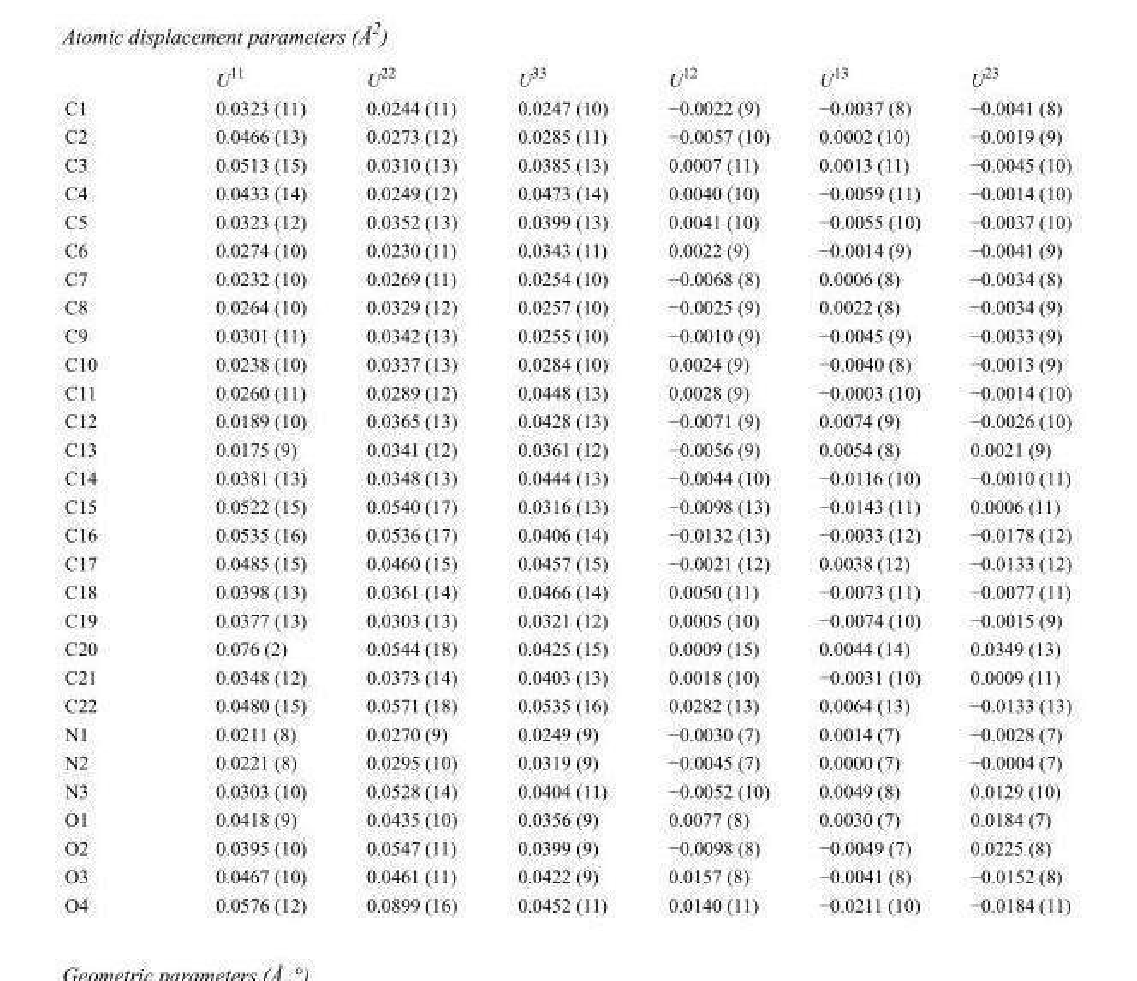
<table><thead><tr><td></td><td>U<sup>11</sup></td><td>U<sup>22</sup></td><td>U<sup>33</sup></td><td>U<sup>12</sup></td><td>U<sup>13</sup></td><td>U<sup>23</sup></td></tr></thead><tbody><tr><td>C1</td><td>0.0323 (11)</td><td>0.0244 (11)</td><td>0.0247 (10)</td><td>−0.0022 (9)</td><td>−0.0037 (8)</td><td>−0.0041 (8)</td></tr><tr><td>C2</td><td>0.0466 (13)</td><td>0.0273 (12)</td><td>0.0285 (11)</td><td>−0.0057 (10)</td><td>0.0002 (10)</td><td>−0.0019 (9)</td></tr><tr><td>C3</td><td>0.0513 (15)</td><td>0.0310 (13)</td><td>0.0385 (13)</td><td>0.0007 (11)</td><td>0.0013 (11)</td><td>−0.0045 (10)</td></tr><tr><td>C4</td><td>0.0433 (14)</td><td>0.0249 (12)</td><td>0.0473 (14)</td><td>0.0040 (10)</td><td>−0.0059 (11)</td><td>−0.0014 (10)</td></tr><tr><td>C5</td><td>0.0323 (12)</td><td>0.0352 (13)</td><td>0.0399 (13)</td><td>0.0041 (10)</td><td>−0.0055 (10)</td><td>−0.0037 (10)</td></tr><tr><td>C6</td><td>0.0274 (10)</td><td>0.0230 (11)</td><td>0.0343 (11)</td><td>0.0022 (9)</td><td>−0.0014 (9)</td><td>−0.0041 (9)</td></tr><tr><td>C7</td><td>0.0232 (10)</td><td>0.0269 (11)</td><td>0.0254 (10)</td><td>−0.0068 (8)</td><td>0.0006 (8)</td><td>−0.0034 (8)</td></tr><tr><td>C8</td><td>0.0264 (10)</td><td>0.0329 (12)</td><td>0.0257 (10)</td><td>−0.0025 (9)</td><td>0.0022 (8)</td><td>−0.0034 (9)</td></tr><tr><td>C9</td><td>0.0301 (11)</td><td>0.0342 (13)</td><td>0.0255 (10)</td><td>−0.0010 (9)</td><td>−0.0045 (9)</td><td>−0.0033 (9)</td></tr><tr><td>C10</td><td>0.0238 (10)</td><td>0.0337 (13)</td><td>0.0284 (10)</td><td>0.0024 (9)</td><td>−0.0040 (8)</td><td>−0.0013 (9)</td></tr><tr><td>C11</td><td>0.0260 (11)</td><td>0.0289 (12)</td><td>0.0448 (13)</td><td>0.0028 (9)</td><td>−0.0003 (10)</td><td>−0.0014 (10)</td></tr><tr><td>C12</td><td>0.0189 (10)</td><td>0.0365 (13)</td><td>0.0428 (13)</td><td>−0.0071 (9)</td><td>0.0074 (9)</td><td>−0.0026 (10)</td></tr><tr><td>C13</td><td>0.0175 (9)</td><td>0.0341 (12)</td><td>0.0361 (12)</td><td>−0.0056 (9)</td><td>0.0054 (8)</td><td>0.0021 (9)</td></tr><tr><td>C14</td><td>0.0381 (13)</td><td>0.0348 (13)</td><td>0.0444 (13)</td><td>−0.0044 (10)</td><td>−0.0116 (10)</td><td>−0.0010 (11)</td></tr><tr><td>C15</td><td>0.0522 (15)</td><td>0.0540 (17)</td><td>0.0316 (13)</td><td>−0.0098 (13)</td><td>−0.0143 (11)</td><td>0.0006 (11)</td></tr><tr><td>C16</td><td>0.0535 (16)</td><td>0.0536 (17)</td><td>0.0406 (14)</td><td>−0.0132 (13)</td><td>−0.0033 (12)</td><td>−0.0178 (12)</td></tr><tr><td>C17</td><td>0.0485 (15)</td><td>0.0460 (15)</td><td>0.0457 (15)</td><td>−0.0021 (12)</td><td>0.0038 (12)</td><td>−0.0133 (12)</td></tr><tr><td>C18</td><td>0.0398 (13)</td><td>0.0361 (14)</td><td>0.0466 (14)</td><td>0.0050 (11)</td><td>−0.0073 (11)</td><td>−0.0077 (11)</td></tr><tr><td>C19</td><td>0.0377 (13)</td><td>0.0303 (13)</td><td>0.0321 (12)</td><td>0.0005 (10)</td><td>−0.0074 (10)</td><td>−0.0015 (9)</td></tr><tr><td>C20</td><td>0.076 (2)</td><td>0.0544 (18)</td><td>0.0425 (15)</td><td>0.0009 (15)</td><td>0.0044 (14)</td><td>0.0349 (13)</td></tr><tr><td>C21</td><td>0.0348 (12)</td><td>0.0373 (14)</td><td>0.0403 (13)</td><td>0.0018 (10)</td><td>−0.0031 (10)</td><td>0.0009 (11)</td></tr><tr><td>C22</td><td>0.0480 (15)</td><td>0.0571 (18)</td><td>0.0535 (16)</td><td>0.0282 (13)</td><td>0.0064 (13)</td><td>−0.0133 (13)</td></tr><tr><td>N1</td><td>0.0211 (8)</td><td>0.0270 (9)</td><td>0.0249 (9)</td><td>−0.0030 (7)</td><td>0.0014 (7)</td><td>−0.0028 (7)</td></tr><tr><td>N2</td><td>0.0221 (8)</td><td>0.0295 (10)</td><td>0.0319 (9)</td><td>−0.0045 (7)</td><td>0.0000 (7)</td><td>−0.0004 (7)</td></tr><tr><td>N3</td><td>0.0303 (10)</td><td>0.0528 (14)</td><td>0.0404 (11)</td><td>−0.0052 (10)</td><td>0.0049 (8)</td><td>0.0129 (10)</td></tr><tr><td>O1</td><td>0.0418 (9)</td><td>0.0435 (10)</td><td>0.0356 (9)</td><td>0.0077 (8)</td><td>0.0030 (7)</td><td>0.0184 (7)</td></tr><tr><td>O2</td><td>0.0395 (10)</td><td>0.0547 (11)</td><td>0.0399 (9)</td><td>−0.0098 (8)</td><td>−0.0049 (7)</td><td>0.0225 (8)</td></tr><tr><td>O3</td><td>0.0467 (10)</td><td>0.0461 (11)</td><td>0.0422 (9)</td><td>0.0157 (8)</td><td>−0.0041 (8)</td><td>−0.0152 (8)</td></tr><tr><td>O4</td><td>0.0576 (12)</td><td>0.0899 (16)</td><td>0.0452 (11)</td><td>0.0140 (11)</td><td>−0.0211 (10)</td><td>−0.0184 (11)</td></tr></tbody></table>